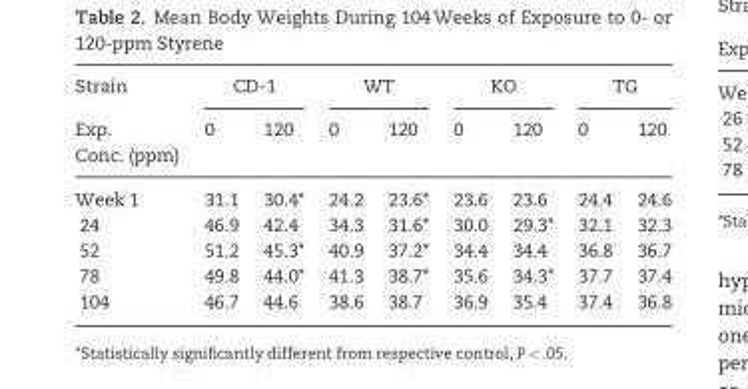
<table><thead><tr><td rowspan="2">Strain Exp. Conc. (ppm)</td><td colspan="2">CD-1</td><td colspan="2">WT</td><td colspan="2">KO</td><td colspan="2">TG</td></tr><tr><td>0</td><td>120</td><td>0</td><td>120</td><td>0</td><td>120</td><td>0</td><td>120</td></tr></thead><tbody><tr><td>Week 1</td><td>31.1</td><td>30.4*</td><td>24.2</td><td>23.6*</td><td>23.6</td><td>23.6</td><td>24.4</td><td>24.6</td></tr><tr><td>24</td><td>46.9</td><td>42.4</td><td>34.3</td><td>31.6*</td><td>30.0</td><td>29.3*</td><td>32.1</td><td>32.3</td></tr><tr><td>52</td><td>51.2</td><td>45.3*</td><td>40.9</td><td>37.2*</td><td>34.4</td><td>34.4</td><td>36.8</td><td>36.7</td></tr><tr><td>78</td><td>49.8</td><td>44.0*</td><td>41.3</td><td>38.7*</td><td>35.6</td><td>34.3*</td><td>37.7</td><td>37.4</td></tr><tr><td>104</td><td>46.7</td><td>44.6</td><td>38.6</td><td>38.7</td><td>36.9</td><td>35.4</td><td>37.4</td><td>36.8</td></tr></tbody></table>